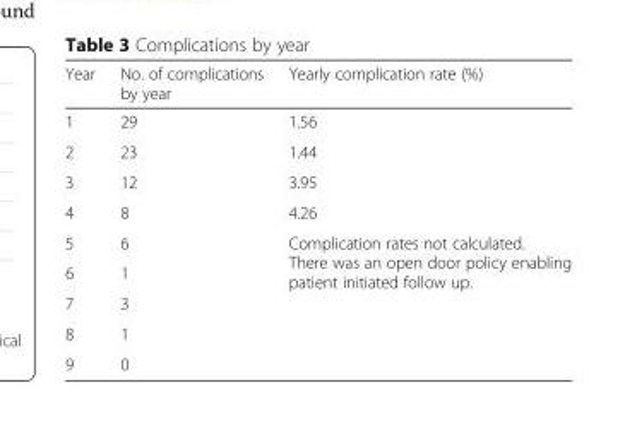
<table><thead><tr><td>Year</td><td>No. of complications by year</td><td>Yearly complication rate (%)</td></tr></thead><tbody><tr><td>1</td><td>29</td><td>1.56</td></tr><tr><td>2</td><td>23</td><td>1.44</td></tr><tr><td>3</td><td>12</td><td>3.95</td></tr><tr><td>4</td><td>8</td><td>4.26</td></tr><tr><td>5</td><td>6</td><td rowspan="5">Complication rates not calculated. There was an open door policy enabling patient initiated follow up.</td></tr><tr><td>6</td><td>1</td></tr><tr><td>7</td><td>3</td></tr><tr><td>8</td><td>1</td></tr><tr><td>9</td><td>0</td></tr></tbody></table>